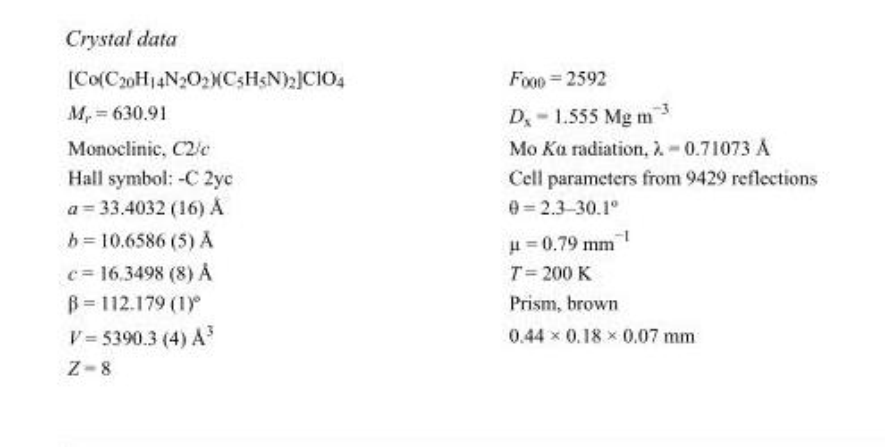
<table><tbody><tr><td>[Co(C<sub>20</sub>H<sub>14</sub>N<sub>2</sub>O<sub>2</sub>)(C<sub>5</sub>H<sub>5</sub>N)<sub>2</sub>]ClO<sub>4</sub></td><td>F000 = 2592</td></tr><tr><td>M<sub>r</sub> = 630.91</td><td>D<sub>x</sub> = 1.555 Mg m<sup>−3</sup></td></tr><tr><td>Monoclinic, C2/c</td><td>Mo Kα radiation, λ = 0.71073 Å</td></tr><tr><td>Hall symbol: -C 2yc</td><td>Cell parameters from 9429 reflections</td></tr><tr><td>a = 33.4032 (16) Å</td><td>θ = 2.3–30.1º</td></tr><tr><td>b = 10.6586 (5) Å</td><td>µ = 0.79 mm<sup>−1</sup></td></tr><tr><td>c = 16.3498 (8) Å</td><td>T = 200 K</td></tr><tr><td>β = 112.179 (1)º</td><td>Prism, brown</td></tr><tr><td>V = 5390.3 (4) Å<sup>3</sup></td><td>0.44 × 0.18 × 0.07 mm</td></tr><tr><td>Z = 8</td><td></td></tr></tbody></table>